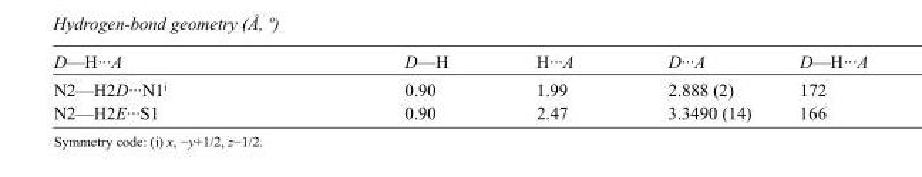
<table><tbody><tr><td>D—H···A</td><td>D—H</td><td>H···A</td><td>D···A</td><td>D—H···A</td></tr><tr><td>N2—H2D···N1<sup>i</sup></td><td>0.90</td><td>1.99</td><td>2.888 (2)</td><td>172</td></tr><tr><td>N2—H2E···S1</td><td>0.90</td><td>2.47</td><td>3.3490 (14)</td><td>166</td></tr></tbody></table>